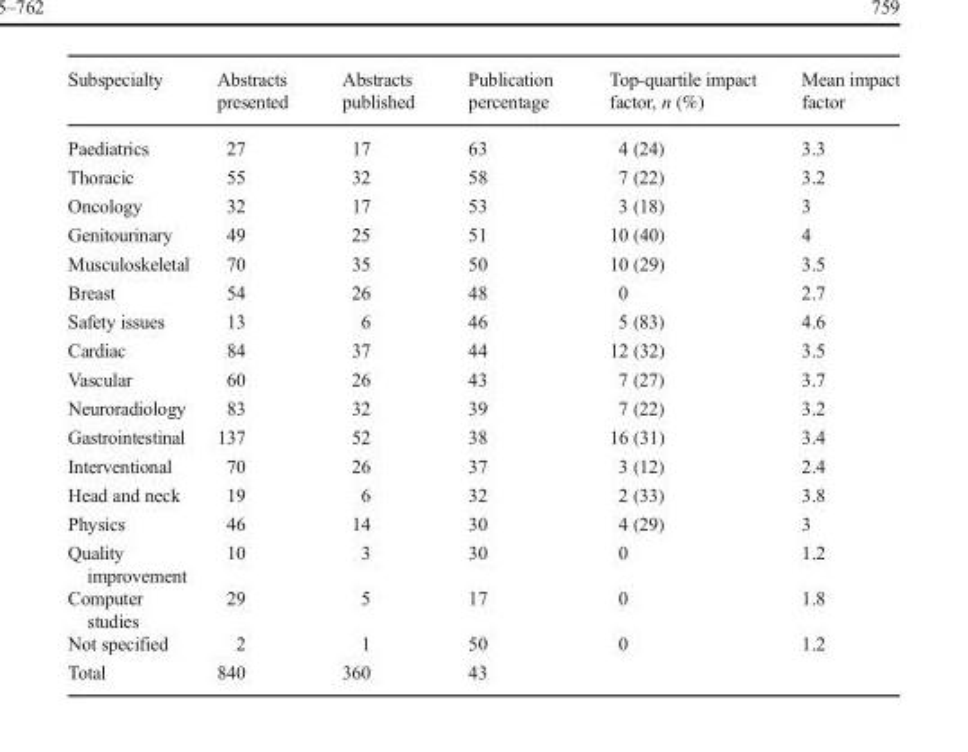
<table><thead><tr><td>Subspecialty</td><td>Abstracts presented</td><td>Abstracts published</td><td>Publication percentage</td><td>Top-quartile impact factor, n (%)</td><td>Mean impact factor</td></tr></thead><tbody><tr><td>Paediatrics</td><td>27</td><td>17</td><td>63</td><td>4 (24)</td><td>3.3</td></tr><tr><td>Thoracic</td><td>55</td><td>32</td><td>58</td><td>7 (22)</td><td>3.2</td></tr><tr><td>Oncology</td><td>32</td><td>17</td><td>53</td><td>3 (18)</td><td>3</td></tr><tr><td>Genitourinary</td><td>49</td><td>25</td><td>51</td><td>10 (40)</td><td>4</td></tr><tr><td>Musculoskeletal</td><td>70</td><td>35</td><td>50</td><td>10 (29)</td><td>3.5</td></tr><tr><td>Breast</td><td>54</td><td>26</td><td>48</td><td>0</td><td>2.7</td></tr><tr><td>Safety issues</td><td>13</td><td>6</td><td>46</td><td>5 (83)</td><td>4.6</td></tr><tr><td>Cardiac</td><td>84</td><td>37</td><td>44</td><td>12 (32)</td><td>3.5</td></tr><tr><td>Vascular</td><td>60</td><td>26</td><td>43</td><td>7 (27)</td><td>3.7</td></tr><tr><td>Neuroradiology</td><td>83</td><td>32</td><td>39</td><td>7 (22)</td><td>3.2</td></tr><tr><td>Gastrointestinal</td><td>137</td><td>52</td><td>38</td><td>16 (31)</td><td>3.4</td></tr><tr><td>Interventional</td><td>70</td><td>26</td><td>37</td><td>3 (12)</td><td>2.4</td></tr><tr><td>Head and neck</td><td>19</td><td>6</td><td>32</td><td>2 (33)</td><td>3.8</td></tr><tr><td>Physics</td><td>46</td><td>14</td><td>30</td><td>4 (29)</td><td>3</td></tr><tr><td>Quality improvement</td><td>10</td><td>3</td><td>30</td><td>0</td><td>1.2</td></tr><tr><td>Computer studies</td><td>29</td><td>5</td><td>17</td><td>0</td><td>1.8</td></tr><tr><td>Not specified</td><td>2</td><td>1</td><td>50</td><td>0</td><td>1.2</td></tr><tr><td>Total</td><td>840</td><td>360</td><td>43</td><td></td><td></td></tr></tbody></table>